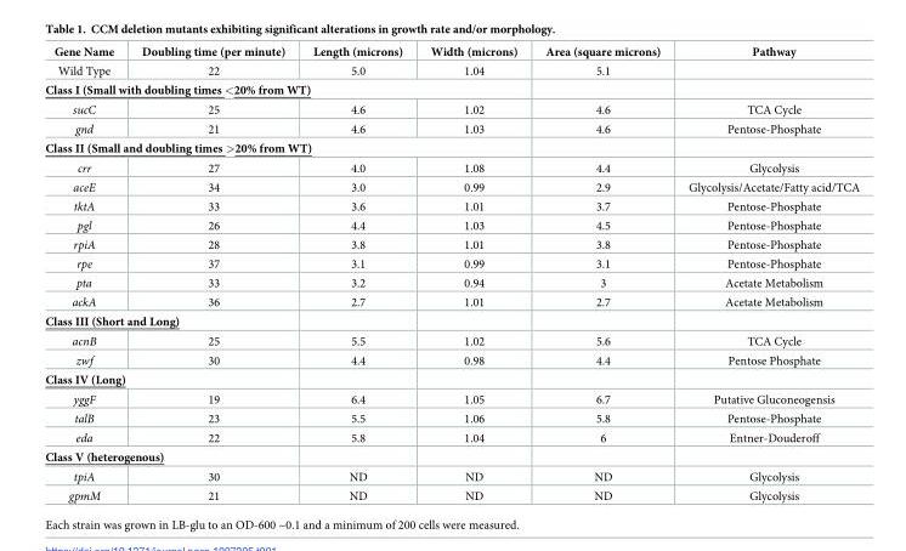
<table><thead><tr><td>Gene Name</td><td>Doubling time (per minute)</td><td>Length (microns)</td><td>Width (microns)</td><td>Area (square microns)</td><td>Pathway</td></tr></thead><tbody><tr><td>Wild Type</td><td>22</td><td>5.0</td><td>1.04</td><td>5.1</td><td></td></tr><tr><td colspan="6">Class I (Small with doubling times &lt;20% from WT)</td></tr><tr><td>sucC</td><td>25</td><td>4.6</td><td>1.02</td><td>4.6</td><td>TCA Cycle</td></tr><tr><td>gnd</td><td>21</td><td>4.6</td><td>1.03</td><td>4.6</td><td>Pentose-Phosphate</td></tr><tr><td colspan="6">Class II (Small and doubling times &gt;20% from WT)</td></tr><tr><td>crr</td><td>27</td><td>4.0</td><td>1.08</td><td>4.4</td><td>Glycolysis</td></tr><tr><td>aceE</td><td>34</td><td>3.0</td><td>0.99</td><td>2.9</td><td>Glycolysis/Acetate/Fatty acid/TCA</td></tr><tr><td>tktA</td><td>33</td><td>3.6</td><td>1.01</td><td>3.7</td><td>Pentose-Phosphate</td></tr><tr><td>pgl</td><td>26</td><td>4.4</td><td>1.03</td><td>4.5</td><td>Pentose-Phosphate</td></tr><tr><td>rpiA</td><td>28</td><td>3.8</td><td>1.01</td><td>3.8</td><td>Pentose-Phosphate</td></tr><tr><td>rpe</td><td>37</td><td>3.1</td><td>0.99</td><td>3.1</td><td>Pentose-Phosphate</td></tr><tr><td>pta</td><td>33</td><td>3.2</td><td>0.94</td><td>3</td><td>Acetate Metabolism</td></tr><tr><td>ackA</td><td>36</td><td>2.7</td><td>1.01</td><td>2.7</td><td>Acetate Metabolism</td></tr><tr><td colspan="6">Class III (Short and Long)</td></tr><tr><td>acnB</td><td>25</td><td>5.5</td><td>1.02</td><td>5.6</td><td>TCA Cycle</td></tr><tr><td>zwf</td><td>30</td><td>4.4</td><td>0.98</td><td>4.4</td><td>Pentose Phosphate</td></tr><tr><td colspan="6">Class IV (Long)</td></tr><tr><td>yggF</td><td>19</td><td>6.4</td><td>1.05</td><td>6.7</td><td>Putative Gluconeogensis</td></tr><tr><td>talB</td><td>23</td><td>5.5</td><td>1.06</td><td>5.8</td><td>Pentose-Phosphate</td></tr><tr><td>eda</td><td>22</td><td>5.8</td><td>1.04</td><td>6</td><td>Entner-Douderoff</td></tr><tr><td colspan="6">Class V (heterogenous)</td></tr><tr><td>tpiA</td><td>30</td><td>ND</td><td>ND</td><td>ND</td><td>Glycolysis</td></tr><tr><td>gpmM</td><td>21</td><td>ND</td><td>ND</td><td>ND</td><td>Glycolysis</td></tr></tbody></table>